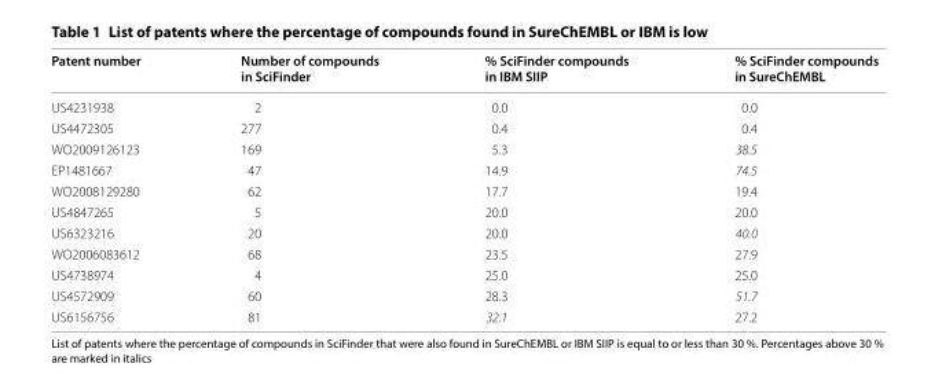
<table><thead><tr><td>Patent number</td><td>Number of compounds in SciFinder</td><td>% SciFinder compounds in IBM SIIP</td><td>% SciFinder compounds in SureChEMBL</td></tr></thead><tbody><tr><td>US4231938</td><td>2</td><td>0.0</td><td>0.0</td></tr><tr><td>US4472305</td><td>277</td><td>0.4</td><td>0.4</td></tr><tr><td>WO2009126123</td><td>169</td><td>5.3</td><td>38.5</td></tr><tr><td>EP1481667</td><td>47</td><td>14.9</td><td>74.5</td></tr><tr><td>WO2008129280</td><td>62</td><td>17.7</td><td>19.4</td></tr><tr><td>US4847265</td><td>5</td><td>20.0</td><td>20.0</td></tr><tr><td>US6323216</td><td>20</td><td>20.0</td><td>40.0</td></tr><tr><td>WO2006083612</td><td>68</td><td>23.5</td><td>27.9</td></tr><tr><td>US4738974</td><td>4</td><td>25.0</td><td>25.0</td></tr><tr><td>US4572909</td><td>60</td><td>28.3</td><td>51.7</td></tr><tr><td>US6156756</td><td>81</td><td>32.1</td><td>27.2</td></tr></tbody></table>